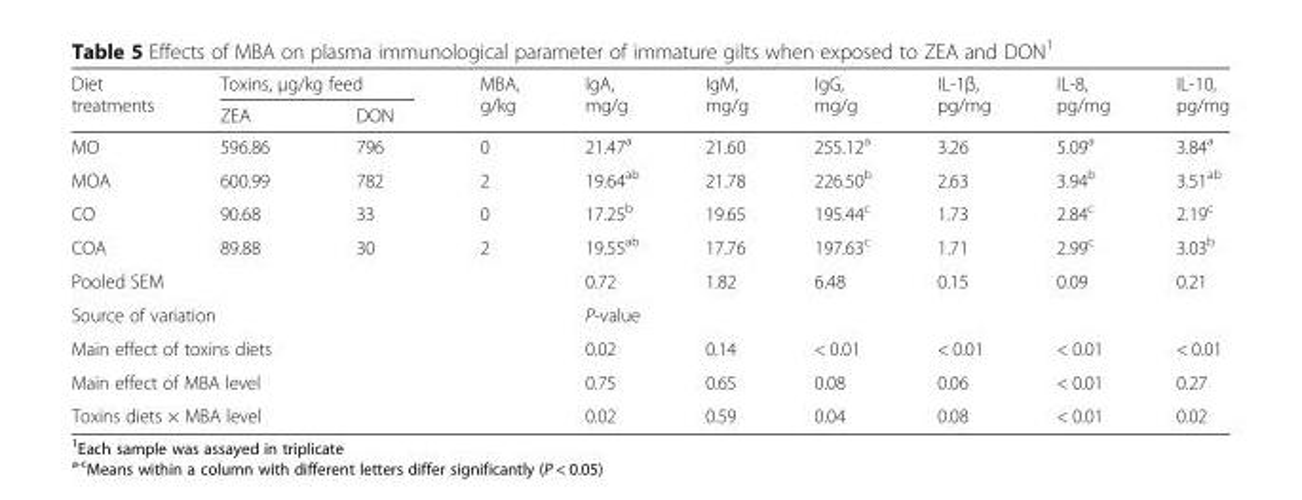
<table><thead><tr><td rowspan="2">Diet treatments</td><td colspan="2">Toxins, μg/kg feed</td><td rowspan="2">MBA, g/kg</td><td rowspan="2">IgA, mg/g</td><td rowspan="2">IgM, mg/g</td><td rowspan="2">IgG, mg/g</td><td rowspan="2">IL-1β, pg/mg</td><td rowspan="2">IL-8, pg/mg</td><td rowspan="2">IL-10, pg/mg</td></tr><tr><td>ZEA</td><td>DON</td></tr></thead><tbody><tr><td>MO</td><td>596.86</td><td>796</td><td>0</td><td>21.47<sup>a</sup></td><td>21.60</td><td>255.12<sup>a</sup></td><td>3.26</td><td>5.09<sup>a</sup></td><td>3.84<sup>a</sup></td></tr><tr><td>MOA</td><td>600.99</td><td>782</td><td>2</td><td>19.64<sup>ab</sup></td><td>21.78</td><td>226.50<sup>b</sup></td><td>2.63</td><td>3.94<sup>b</sup></td><td>3.51<sup>ab</sup></td></tr><tr><td>CO</td><td>90.68</td><td>33</td><td>0</td><td>17.25<sup>b</sup></td><td>19.65</td><td>195.44<sup>c</sup></td><td>1.73</td><td>2.84<sup>c</sup></td><td>2.19<sup>c</sup></td></tr><tr><td>COA</td><td>89.88</td><td>30</td><td>2</td><td>19.55<sup>ab</sup></td><td>17.76</td><td>197.63<sup>c</sup></td><td>1.71</td><td>2.99<sup>c</sup></td><td>3.03<sup>b</sup></td></tr><tr><td colspan="4">Pooled SEM</td><td>0.72</td><td>1.82</td><td>6.48</td><td>0.15</td><td>0.09</td><td>0.21</td></tr><tr><td colspan="4">Source of variation</td><td colspan="6">P-value</td></tr><tr><td colspan="4">Main effect of toxins diets</td><td>0.02</td><td>0.14</td><td>&lt; 0.01</td><td>&lt; 0.01</td><td>&lt; 0.01</td><td>&lt; 0.01</td></tr><tr><td colspan="4">Main effect of MBA level</td><td>0.75</td><td>0.65</td><td>0.08</td><td>0.06</td><td>&lt; 0.01</td><td>0.27</td></tr><tr><td colspan="4">Toxins diets × MBA level</td><td>0.02</td><td>0.59</td><td>0.04</td><td>0.08</td><td>&lt; 0.01</td><td>0.02</td></tr></tbody></table>